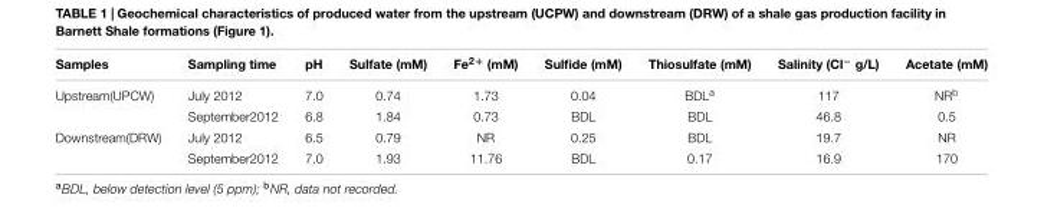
<table><thead><tr><td>Samples</td><td>Sampling time</td><td>pH</td><td>Sulfate (mM)</td><td>Fe<sup>2+</sup> (mM)</td><td>Sulfide (mM)</td><td>Thiosulfate (mM)</td><td>Salinity (Cl<sup>−</sup> g/L)</td><td>Acetate (mM)</td></tr></thead><tbody><tr><td rowspan="2">Upstream(UPCW)</td><td>July 2012</td><td>7.0</td><td>0.74</td><td>1.73</td><td>0.04</td><td>BDL<sup>a</sup></td><td>117</td><td>NR<sup>b</sup></td></tr><tr><td>September2012</td><td>6.8</td><td>1.84</td><td>0.73</td><td>BDL</td><td>BDL</td><td>46.8</td><td>0.5</td></tr><tr><td rowspan="2">Downstream(DRW)</td><td>July 2012</td><td>6.5</td><td>0.79</td><td>NR</td><td>0.25</td><td>BDL</td><td>19.7</td><td>NR</td></tr><tr><td>September2012</td><td>7.0</td><td>1.93</td><td>11.76</td><td>BDL</td><td>0.17</td><td>16.9</td><td>170</td></tr></tbody></table>